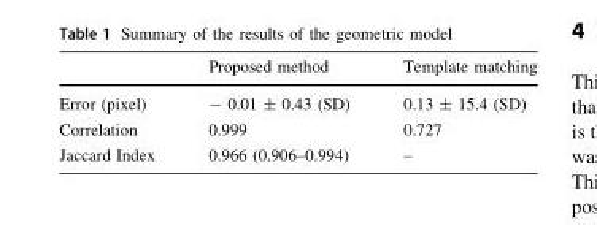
<table><thead><tr><td></td><td>Proposed method</td><td>Template matching</td></tr></thead><tbody><tr><td>Error (pixel)</td><td>- 0.01 ± 0.43 (SD)</td><td>0.13 ± 15.4 (SD)</td></tr><tr><td>Correlation</td><td>0.999</td><td>0.727</td></tr><tr><td>Jaccard Index</td><td>0.966 (0.906–0.994)</td><td>–</td></tr></tbody></table>